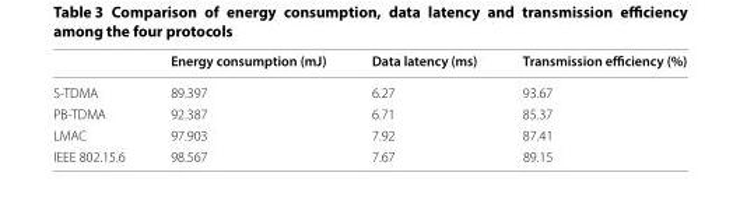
<table><thead><tr><td></td><td>Energy consumption (mJ)</td><td>Data latency (ms)</td><td>Transmission efficiency (%)</td></tr></thead><tbody><tr><td>S-TDMA</td><td>89.397</td><td>6.27</td><td>93.67</td></tr><tr><td>PB-TDMA</td><td>92.387</td><td>6.71</td><td>85.37</td></tr><tr><td>LMAC</td><td>97.903</td><td>7.92</td><td>87.41</td></tr><tr><td>IEEE 802.15.6</td><td>98.567</td><td>7.67</td><td>89.15</td></tr></tbody></table>